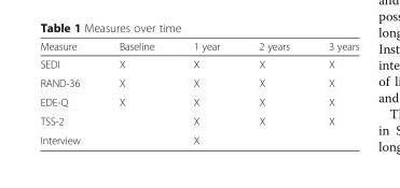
<table><thead><tr><td>Measure</td><td>Baseline</td><td>1 year</td><td>2 years</td><td>3 years</td></tr></thead><tbody><tr><td>SEDI</td><td>X</td><td>X</td><td>X</td><td>X</td></tr><tr><td>RAND-36</td><td>X</td><td>X</td><td>X</td><td>X</td></tr><tr><td>EDE-Q</td><td>X</td><td>X</td><td>X</td><td>X</td></tr><tr><td>TSS-2</td><td></td><td>X</td><td>X</td><td>X</td></tr><tr><td>Interview</td><td></td><td>X</td><td></td><td></td></tr></tbody></table>